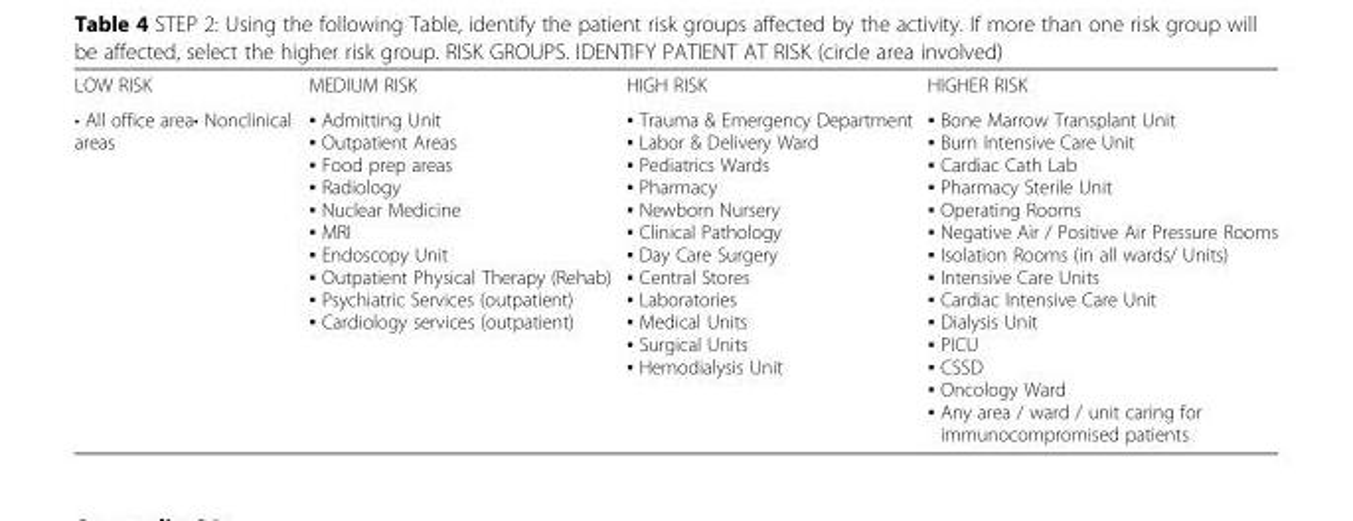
<table><tbody><tr><td>LOW RISK</td><td>MEDIUM RISK</td><td>HIGH RISK</td><td>HIGHER RISK</td></tr><tr><td>• All office area• Nonclinical areas</td><td>▪ Admitting Unit ▪ Outpatient Areas ▪ Food prep areas ▪ Radiology ▪ Nuclear Medicine ▪ MRI ▪ Endoscopy Unit ▪ Outpatient Physical Therapy (Rehab) ▪ Psychiatric Services (outpatient) ▪ Cardiology services (outpatient)</td><td>▪ Trauma &amp; Emergency Department ▪ Labor &amp; Delivery Ward ▪ Pediatrics Wards ▪ Pharmacy ▪ Newborn Nursery ▪ Clinical Pathology ▪ Day Care Surgery ▪ Central Stores ▪ Laboratories ▪ Medical Units ▪ Surgical Units ▪ Hemodialysis Unit</td><td>▪ Bone Marrow Transplant Unit ▪ Burn Intensive Care Unit ▪ Cardiac Cath Lab ▪ Pharmacy Sterile Unit ▪ Operating Rooms ▪ Negative Air / Positive Air Pressure Rooms ▪ Isolation Rooms (in all wards/ Units) ▪ Intensive Care Units ▪ Cardiac Intensive Care Unit ▪ Dialysis Unit ▪ PICU ▪ CSSD ▪ Oncology Ward ▪ Any area / ward / unit caring for immunocompromised patients</td></tr></tbody></table>